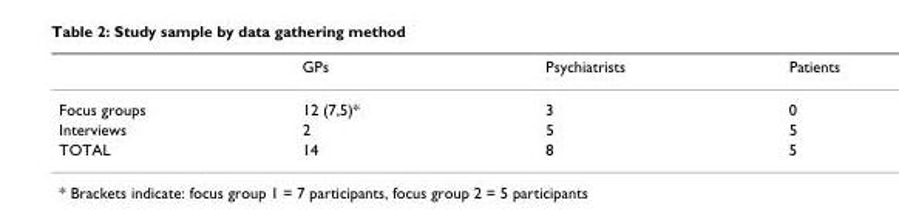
<table><thead><tr><td></td><td>GPs</td><td>Psychiatrists</td><td>Patients</td></tr></thead><tbody><tr><td>Focus groups</td><td>12 (7,5)*</td><td>3</td><td>0</td></tr><tr><td>Interviews</td><td>2</td><td>5</td><td>5</td></tr><tr><td>TOTAL</td><td>14</td><td>8</td><td>5</td></tr></tbody></table>